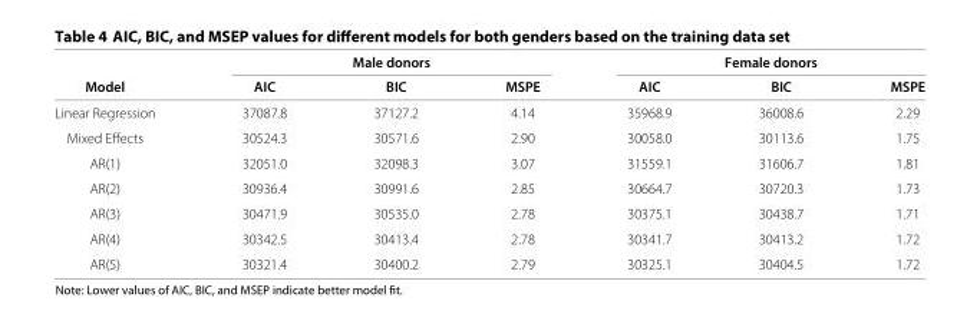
<table><thead><tr><td rowspan="2">Model</td><td colspan="3">Male donors</td><td colspan="3">Female donors</td></tr><tr><td>AIC</td><td>BIC</td><td>MSPE</td><td>AIC</td><td>BIC</td><td>MSPE</td></tr></thead><tbody><tr><td>Linear Regression</td><td>37087.8</td><td>37127.2</td><td>4.14</td><td>35968.9</td><td>36008.6</td><td>2.29</td></tr><tr><td>Mixed Effects</td><td>30524.3</td><td>30571.6</td><td>2.90</td><td>30058.0</td><td>30113.6</td><td>1.75</td></tr><tr><td>AR(1)</td><td>32051.0</td><td>32098.3</td><td>3.07</td><td>31559.1</td><td>31606.7</td><td>1.81</td></tr><tr><td>AR(2)</td><td>30936.4</td><td>30991.6</td><td>2.85</td><td>30664.7</td><td>30720.3</td><td>1.73</td></tr><tr><td>AR(3)</td><td>30471.9</td><td>30535.0</td><td>2.78</td><td>30375.1</td><td>30438.7</td><td>1.71</td></tr><tr><td>AR(4)</td><td>30342.5</td><td>30413.4</td><td>2.78</td><td>30341.7</td><td>30413.2</td><td>1.72</td></tr><tr><td>AR(5)</td><td>30321.4</td><td>30400.2</td><td>2.79</td><td>30325.1</td><td>30404.5</td><td>1.72</td></tr></tbody></table>